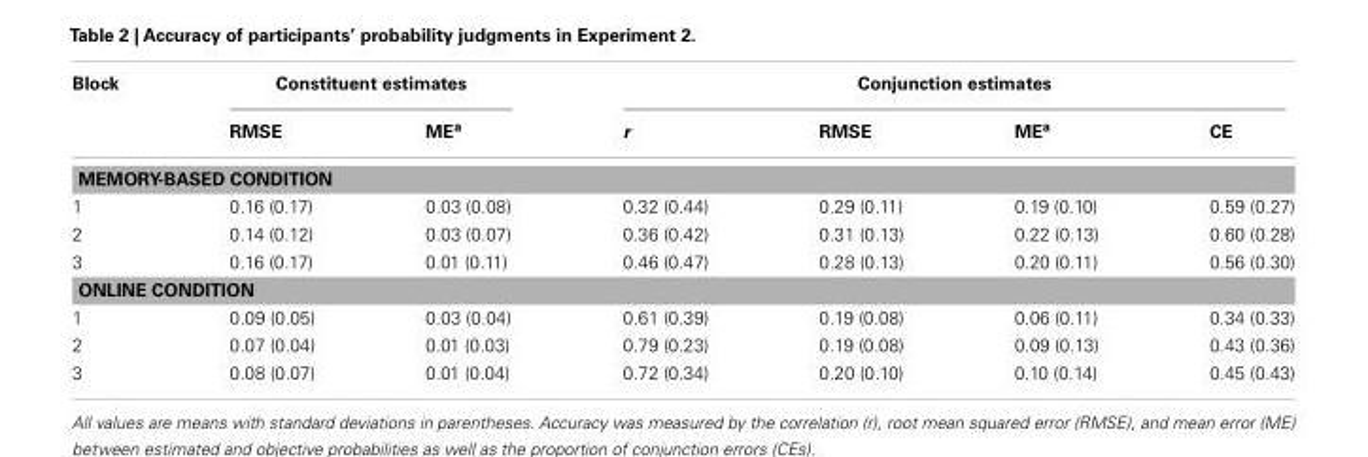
<table><thead><tr><td rowspan="2">Block</td><td colspan="2">Constituent estimates</td><td colspan="4">Conjunction estimates</td></tr><tr><td>RMSE</td><td>ME<sup>a</sup></td><td>r</td><td>RMSE</td><td>ME<sup>a</sup></td><td>CE</td></tr></thead><tbody><tr><td colspan="7">MEMORY-BASED CONDITION</td></tr><tr><td>1</td><td>0.16 (0.17)</td><td>0.03 (0.08)</td><td>0.32 (0.44)</td><td>0.29 (0.11)</td><td>0.19 (0.10)</td><td>0.59 (0.27)</td></tr><tr><td>2</td><td>0.14 (0.12)</td><td>0.03 (0.07)</td><td>0.36 (0.42)</td><td>0.31 (0.13)</td><td>0.22 (0.13)</td><td>0.60 (0.28)</td></tr><tr><td>3</td><td>0.16 (0.17)</td><td>0.01 (0.11)</td><td>0.46 (0.47)</td><td>0.28 (0.13)</td><td>0.20 (0.11)</td><td>0.56 (0.30)</td></tr><tr><td colspan="7">ONLINE CONDITION</td></tr><tr><td>1</td><td>0.09 (0.05)</td><td>0.03 (0.04)</td><td>0.61 (0.39)</td><td>0.19 (0.08)</td><td>0.06 (0.11)</td><td>0.34 (0.33)</td></tr><tr><td>2</td><td>0.07 (0.04)</td><td>0.01 (0.03)</td><td>0.79 (0.23)</td><td>0.19 (0.08)</td><td>0.09 (0.13)</td><td>0.43 (0.36)</td></tr><tr><td>3</td><td>0.08 (0.07)</td><td>0.01 (0.04)</td><td>0.72 (0.34)</td><td>0.20 (0.10)</td><td>0.10 (0.14)</td><td>0.45 (0.43)</td></tr></tbody></table>